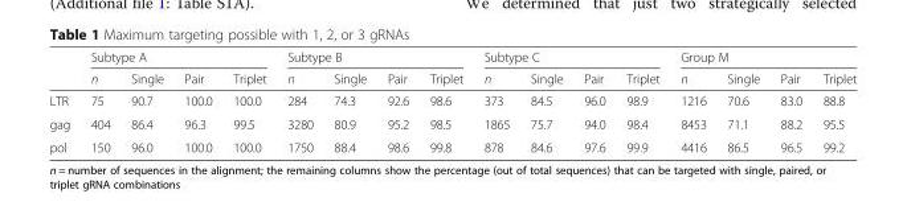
<table><thead><tr><td rowspan="2"></td><td colspan="4">Subtype A</td><td colspan="4">Subtype B</td><td colspan="4">Subtype C</td><td colspan="4">Group M</td></tr><tr><td>n</td><td>Single</td><td>Pair</td><td>Triplet</td><td>n</td><td>Single</td><td>Pair</td><td>Triplet</td><td>n</td><td>Single</td><td>Pair</td><td>Triplet</td><td>n</td><td>Single</td><td>Pair</td><td>Triplet</td></tr></thead><tbody><tr><td>LTR</td><td>75</td><td>90.7</td><td>100.0</td><td>100.0</td><td>284</td><td>74.3</td><td>92.6</td><td>98.6</td><td>373</td><td>84.5</td><td>96.0</td><td>98.9</td><td>1216</td><td>70.6</td><td>83.0</td><td>88.8</td></tr><tr><td>gag</td><td>404</td><td>86.4</td><td>96.3</td><td>99.5</td><td>3280</td><td>80.9</td><td>95.2</td><td>98.5</td><td>1865</td><td>75.7</td><td>94.0</td><td>98.4</td><td>8453</td><td>71.1</td><td>88.2</td><td>95.5</td></tr><tr><td>pol</td><td>150</td><td>96.0</td><td>100.0</td><td>100.0</td><td>1750</td><td>88.4</td><td>98.6</td><td>99.8</td><td>878</td><td>84.6</td><td>97.6</td><td>99.9</td><td>4416</td><td>86.5</td><td>96.5</td><td>99.2</td></tr></tbody></table>